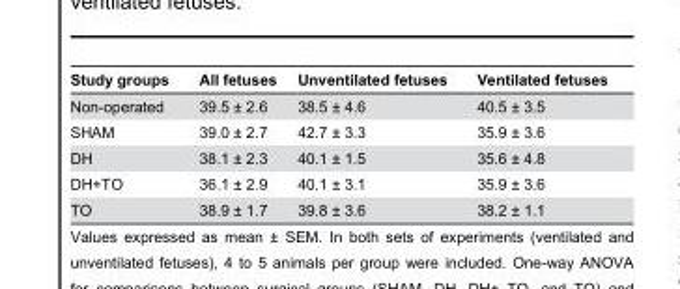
<table><thead><tr><td>Study groups</td><td>All fetuses</td><td>Unventilated fetuses</td><td>Ventilated fetuses</td></tr></thead><tbody><tr><td>Non-operated</td><td>39.5 ± 2.6</td><td>38.5 ± 4.6</td><td>40.5 ± 3.5</td></tr><tr><td>SHAM</td><td>39.0 ± 2.7</td><td>42.7 ± 3.3</td><td>35.9 ± 3.6</td></tr><tr><td>DH</td><td>38.1 ± 2.3</td><td>40.1 ± 1.5</td><td>35.6 ± 4.8</td></tr><tr><td>DH+TO</td><td>36.1 ± 2.9</td><td>40.1 ± 3.1</td><td>35.9 ± 3.6</td></tr><tr><td>TO</td><td>38.9 ± 1.7</td><td>39.8 ± 3.6</td><td>38.2 ± 1.1</td></tr></tbody></table>